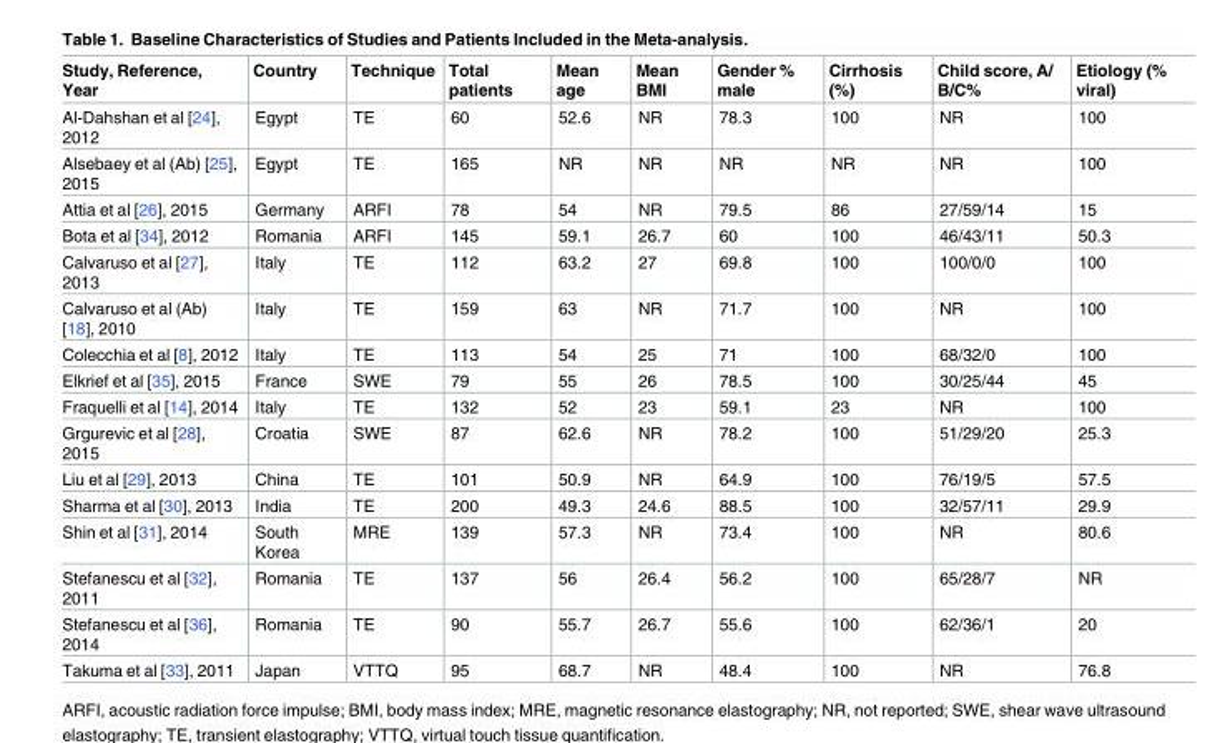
<table><thead><tr><td>Study, Reference, Year</td><td>Country</td><td>Technique</td><td>Total patients</td><td>Mean age</td><td>Mean BMI</td><td>Gender % male</td><td>Cirrhosis (%)</td><td>Child score, A/ B/C%</td><td>Etiology (% viral)</td></tr></thead><tbody><tr><td>Al-Dahshan et al [24], 2012</td><td>Egypt</td><td>TE</td><td>60</td><td>52.6</td><td>NR</td><td>78.3</td><td>100</td><td>NR</td><td>100</td></tr><tr><td>Alsebaey et al (Ab) [25], 2015</td><td>Egypt</td><td>TE</td><td>165</td><td>NR</td><td>NR</td><td>NR</td><td>NR</td><td>NR</td><td>100</td></tr><tr><td>Attia et al [26], 2015</td><td>Germany</td><td>ARFI</td><td>78</td><td>54</td><td>NR</td><td>79.5</td><td>86</td><td>27/59/14</td><td>15</td></tr><tr><td>Bota et al [34], 2012</td><td>Romania</td><td>ARFI</td><td>145</td><td>59.1</td><td>26.7</td><td>60</td><td>100</td><td>46/43/11</td><td>50.3</td></tr><tr><td>Calvaruso et al [27], 2013</td><td>Italy</td><td>TE</td><td>112</td><td>63.2</td><td>27</td><td>69.8</td><td>100</td><td>100/0/0</td><td>100</td></tr><tr><td>Calvaruso et al (Ab) [18], 2010</td><td>Italy</td><td>TE</td><td>159</td><td>63</td><td>NR</td><td>71.7</td><td>100</td><td>NR</td><td>100</td></tr><tr><td>Colecchia et al [8], 2012</td><td>Italy</td><td>TE</td><td>113</td><td>54</td><td>25</td><td>71</td><td>100</td><td>68/32/0</td><td>100</td></tr><tr><td>Elkrief et al [35], 2015</td><td>France</td><td>SWE</td><td>79</td><td>55</td><td>26</td><td>78.5</td><td>100</td><td>30/25/44</td><td>45</td></tr><tr><td>Fraquelli et al [14], 2014</td><td>Italy</td><td>TE</td><td>132</td><td>52</td><td>23</td><td>59.1</td><td>23</td><td>NR</td><td>100</td></tr><tr><td>Grgurevic et al [28], 2015</td><td>Croatia</td><td>SWE</td><td>87</td><td>62.6</td><td>NR</td><td>78.2</td><td>100</td><td>51/29/20</td><td>25.3</td></tr><tr><td>Liu et al [29], 2013</td><td>China</td><td>TE</td><td>101</td><td>50.9</td><td>NR</td><td>64.9</td><td>100</td><td>76/19/5</td><td>57.5</td></tr><tr><td>Sharma et al [30], 2013</td><td>India</td><td>TE</td><td>200</td><td>49.3</td><td>24.6</td><td>88.5</td><td>100</td><td>32/57/11</td><td>29.9</td></tr><tr><td>Shin et al [31], 2014</td><td>South Korea</td><td>MRE</td><td>139</td><td>57.3</td><td>NR</td><td>73.4</td><td>100</td><td>NR</td><td>80.6</td></tr><tr><td>Stefanescu et al [32], 2011</td><td>Romania</td><td>TE</td><td>137</td><td>56</td><td>26.4</td><td>56.2</td><td>100</td><td>65/28/7</td><td>NR</td></tr><tr><td>Stefanescu et al [36], 2014</td><td>Romania</td><td>TE</td><td>90</td><td>55.7</td><td>26.7</td><td>55.6</td><td>100</td><td>62/36/1</td><td>20</td></tr><tr><td>Takuma et al [33], 2011</td><td>Japan</td><td>VTTQ</td><td>95</td><td>68.7</td><td>NR</td><td>48.4</td><td>100</td><td>NR</td><td>76.8</td></tr></tbody></table>